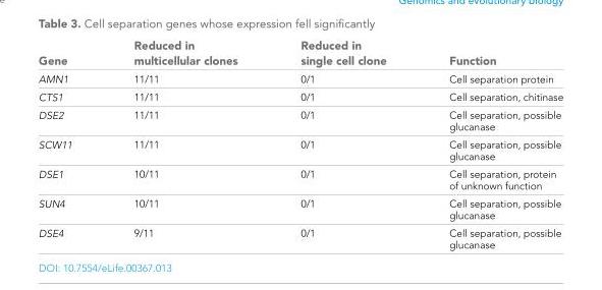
<table><thead><tr><td>Gene</td><td>Reduced in multicellular clones</td><td>Reduced in single cell clone</td><td>Function</td></tr></thead><tbody><tr><td>AMN1</td><td>11/11</td><td>0/1</td><td>Cell separation protein</td></tr><tr><td>CTS1</td><td>11/11</td><td>0/1</td><td>Cell separation, chitinase</td></tr><tr><td>DSE2</td><td>11/11</td><td>0/1</td><td>Cell separation, possible glucanase</td></tr><tr><td>SCW11</td><td>11/11</td><td>0/1</td><td>Cell separation, possible glucanase</td></tr><tr><td>DSE1</td><td>10/11</td><td>0/1</td><td>Cell separation, protein of unknown function</td></tr><tr><td>SUN4</td><td>10/11</td><td>0/1</td><td>Cell separation, possible glucanase</td></tr><tr><td>DSE4</td><td>9/11</td><td>0/1</td><td>Cell separation, possible glucanase</td></tr></tbody></table>